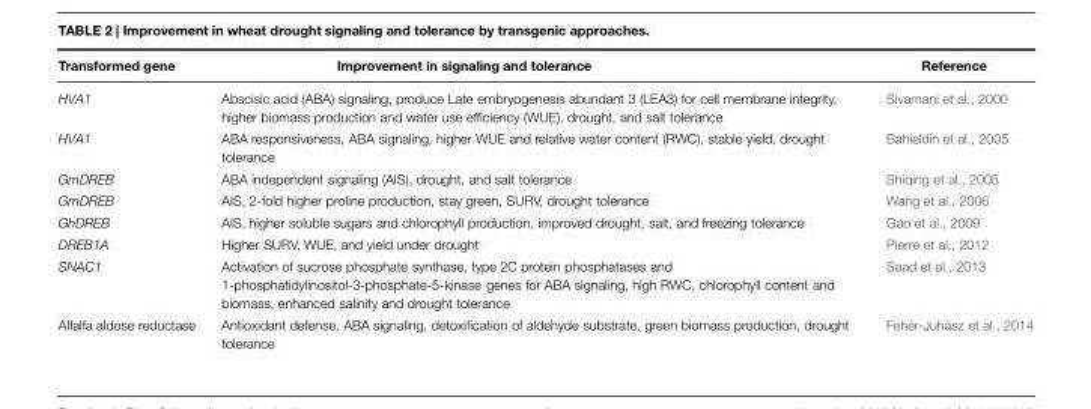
<table><thead><tr><td>Transformed gene</td><td>Improvement in signaling and tolerance</td><td>Reference</td></tr></thead><tbody><tr><td>HVA1</td><td>Abscisic acid (ABA) signaling, produce Late embryogenesis abundant 3 (LEA3) for cell membrane integrity, higher biomass production and water use efficiency (WUE), drought, and salt tolerance</td><td>Sivamani et al., 2000</td></tr><tr><td>HVA1</td><td>ABA responsiveness, ABA signaling, higher WUE and relative water content (RWC), stable yield, drought tolerance</td><td>Bahieldin et al., 2005</td></tr><tr><td>GmDREB</td><td>ABA independent signaling (AIS), drought, and salt tolerance</td><td>Shiqing et al., 2005</td></tr><tr><td>GmDREB</td><td>AIS, 2-fold higher proline production, stay green, SURV, drought tolerance</td><td>Wang et al., 2006</td></tr><tr><td>GhDREB</td><td>AIS, higher soluble sugars and chlorophyll production, improved drought, salt, and freezing tolerance</td><td>Gao et al., 2009</td></tr><tr><td>DREB1A</td><td>Higher SURV, WUE, and yield under drought</td><td>Pierre et al., 2012</td></tr><tr><td>SNAC1</td><td>Activation of sucrose phosphate synthase, type 2C protein phosphatases and 1-phosphatidylinositol-3-phosphate-5-kinase genes for ABA signaling, high RWC, chlorophyll content and biomass, enhanced salinity and drought tolerance</td><td>Saad et al., 2013</td></tr><tr><td>Alfalfa aldose reductase</td><td>Antioxidant defense, ABA signaling, detoxification of aldehyde substrate, green biomass production, drought tolerance</td><td>Fehér-Juhász et al., 2014</td></tr></tbody></table>